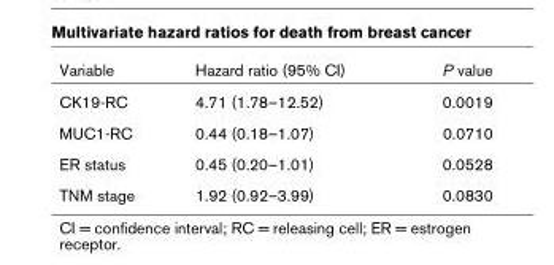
<table><thead><tr><td>Variable</td><td>Hazard ratio (95% CI)</td><td>P value</td></tr></thead><tbody><tr><td>CK19-RC</td><td>4.71 (1.78–12.52)</td><td>0.0019</td></tr><tr><td>MUC1-RC</td><td>0.44 (0.18–1.07)</td><td>0.0710</td></tr><tr><td>ER status</td><td>0.45 (0.20–1.01)</td><td>0.0528</td></tr><tr><td>TNM stage</td><td>1.92 (0.92–3.99)</td><td>0.0830</td></tr></tbody></table>